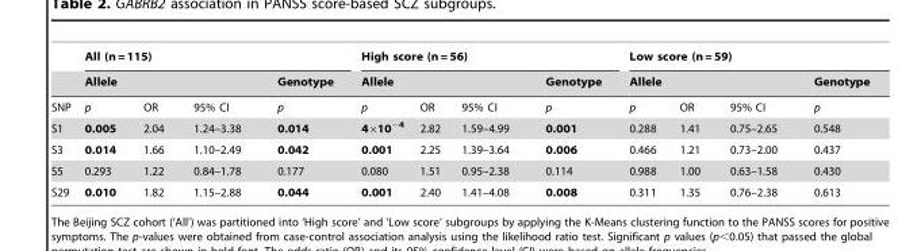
<table><thead><tr><td rowspan="3">SNP</td><td colspan="4">All (n = 115)</td><td colspan="4">High score (n = 56)</td><td colspan="4">Low score (n = 59)</td></tr><tr><td colspan="3">Allele</td><td rowspan="2">Genotype p</td><td colspan="3">Allele</td><td rowspan="2">Genotype p</td><td colspan="3">Allele</td><td rowspan="2">Genotype p</td></tr><tr><td>p</td><td>OR</td><td>95% CI</td><td>p</td><td>OR</td><td>95% CI</td><td>p</td><td>OR</td><td>95% CI</td></tr></thead><tbody><tr><td>S1</td><td>0.005</td><td>2.04</td><td>1.24–3.38</td><td>0.014</td><td>4×10<sup>−4</sup></td><td>2.82</td><td>1.59–4.99</td><td>0.001</td><td>0.288</td><td>1.41</td><td>0.75–2.65</td><td>0.548</td></tr><tr><td>S3</td><td>0.014</td><td>1.66</td><td>1.10–2.49</td><td>0.042</td><td>0.001</td><td>2.25</td><td>1.39–3.64</td><td>0.006</td><td>0.466</td><td>1.21</td><td>0.73–2.00</td><td>0.437</td></tr><tr><td>S5</td><td>0.293</td><td>1.22</td><td>0.84–1.78</td><td>0.177</td><td>0.080</td><td>1.51</td><td>0.95–2.38</td><td>0.114</td><td>0.988</td><td>1.00</td><td>0.63–1.58</td><td>0.430</td></tr><tr><td>S29</td><td>0.010</td><td>1.82</td><td>1.15–2.88</td><td>0.044</td><td>0.001</td><td>2.40</td><td>1.41–4.08</td><td>0.008</td><td>0.311</td><td>1.35</td><td>0.76–2.38</td><td>0.613</td></tr></tbody></table>